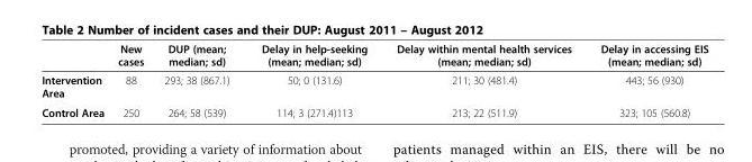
<table><thead><tr><td></td><td>New cases</td><td>DUP (mean; median; sd)</td><td>Delay in help-seeking (mean; median; sd)</td><td>Delay within mental health services (mean; median; sd)</td><td>Delay in accessing EIS (mean; median; sd)</td></tr></thead><tbody><tr><td>Intervention Area</td><td>88</td><td>293; 38 (867.1)</td><td>50; 0 (131.6)</td><td>211; 30 (481.4)</td><td>443; 56 (930)</td></tr><tr><td>Control Area</td><td>250</td><td>264; 58 (539)</td><td>114; 3 (271.4)113</td><td>213; 22 (511.9)</td><td>323; 105 (560.8)</td></tr></tbody></table>